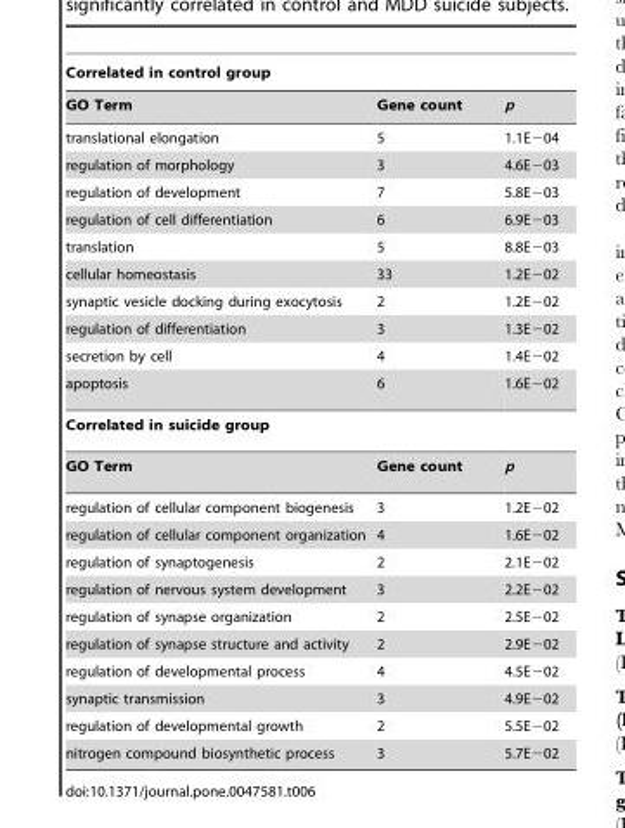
<table><thead><tr><td colspan="3">Correlated in control group</td></tr><tr><td>GO Term</td><td>Gene count</td><td>p</td></tr></thead><tbody><tr><td>translational elongation</td><td>5</td><td>1.1E−04</td></tr><tr><td>regulation of morphology</td><td>3</td><td>4.6E−03</td></tr><tr><td>regulation of development</td><td>7</td><td>5.8E−03</td></tr><tr><td>regulation of cell differentiation</td><td>6</td><td>6.9E−03</td></tr><tr><td>translation</td><td>5</td><td>8.8E−03</td></tr><tr><td>cellular homeostasis</td><td>33</td><td>1.2E−02</td></tr><tr><td>synaptic vesicle docking during exocytosis</td><td>2</td><td>1.2E−02</td></tr><tr><td>regulation of differentiation</td><td>3</td><td>1.3E−02</td></tr><tr><td>secretion by cell</td><td>4</td><td>1.4E−02</td></tr><tr><td>apoptosis</td><td>6</td><td>1.6E−02</td></tr><tr><td colspan="3">Correlated in suicide group</td></tr><tr><td>GO Term</td><td>Gene count</td><td>p</td></tr><tr><td>regulation of cellular component biogenesis</td><td>3</td><td>1.2E−02</td></tr><tr><td>regulation of cellular component organization</td><td>4</td><td>1.6E−02</td></tr><tr><td>regulation of synaptogenesis</td><td>2</td><td>2.1E−02</td></tr><tr><td>regulation of nervous system development</td><td>3</td><td>2.2E−02</td></tr><tr><td>regulation of synapse organization</td><td>2</td><td>2.5E−02</td></tr><tr><td>regulation of synapse structure and activity</td><td>2</td><td>2.9E−02</td></tr><tr><td>regulation of developmental process</td><td>4</td><td>4.5E−02</td></tr><tr><td>synaptic transmission</td><td>3</td><td>4.9E−02</td></tr><tr><td>regulation of developmental growth</td><td>2</td><td>5.5E−02</td></tr><tr><td>nitrogen compound biosynthetic process</td><td>3</td><td>5.7E−02</td></tr></tbody></table>